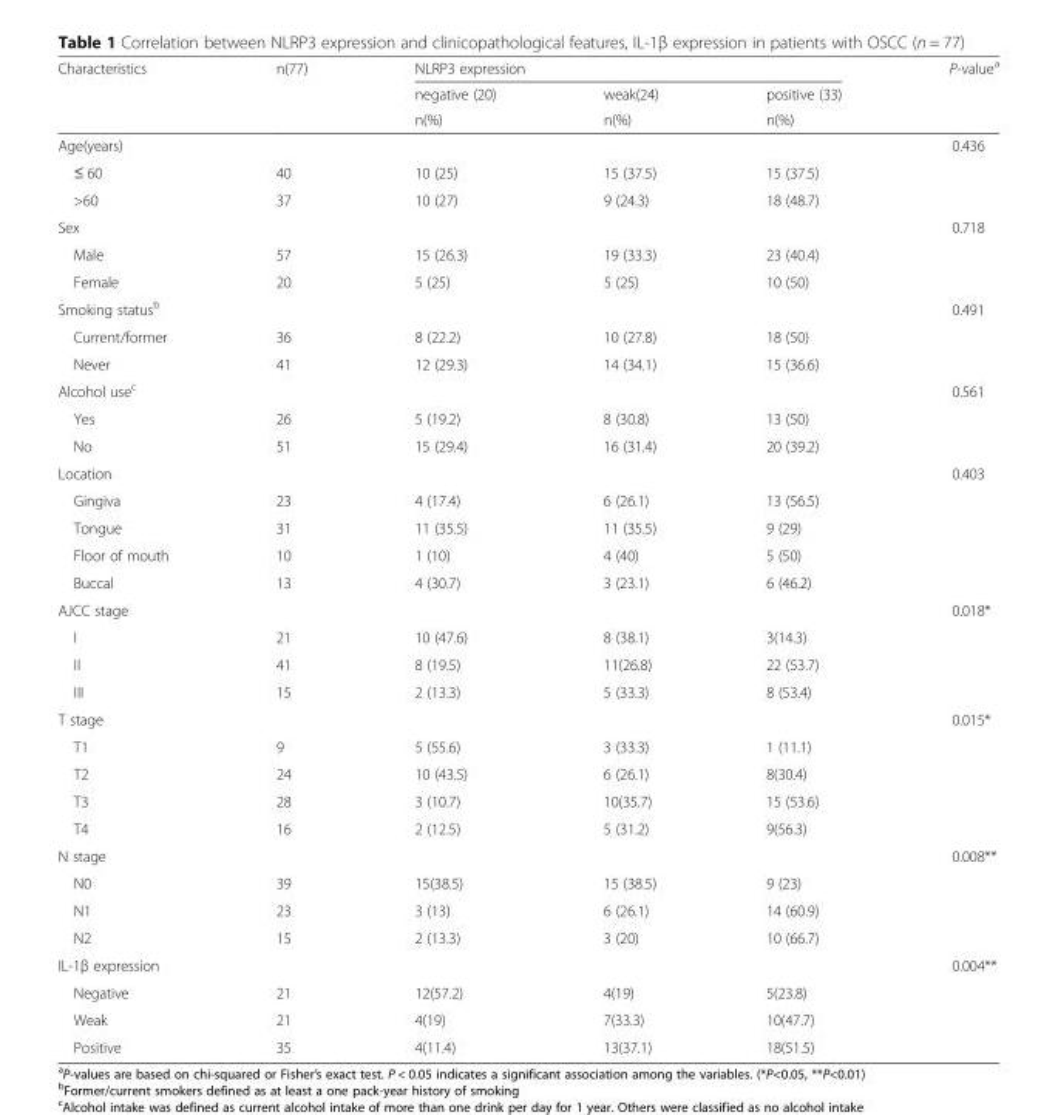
<table><thead><tr><td rowspan="3">Characteristics</td><td rowspan="3">n(77)</td><td colspan="3">NLRP3 expression</td><td rowspan="3">P-value<sup>a</sup></td></tr><tr><td rowspan="2">negative (20) n(%)</td><td rowspan="2">weak(24) n(%)</td><td rowspan="2">positive (33) n(%)</td></tr><tr></tr></thead><tbody><tr><td>Age(years)</td><td></td><td></td><td></td><td></td><td>0.436</td></tr><tr><td>≤ 60</td><td>40</td><td>10 (25)</td><td>15 (37.5)</td><td>15 (37.5)</td><td></td></tr><tr><td>&gt;60</td><td>37</td><td>10 (27)</td><td>9 (24.3)</td><td>18 (48.7)</td><td></td></tr><tr><td>Sex</td><td></td><td></td><td></td><td></td><td>0.718</td></tr><tr><td>Male</td><td>57</td><td>15 (26.3)</td><td>19 (33.3)</td><td>23 (40.4)</td><td></td></tr><tr><td>Female</td><td>20</td><td>5 (25)</td><td>5 (25)</td><td>10 (50)</td><td></td></tr><tr><td>Smoking status<sup>b</sup></td><td></td><td></td><td></td><td></td><td>0.491</td></tr><tr><td>Current/former</td><td>36</td><td>8 (22.2)</td><td>10 (27.8)</td><td>18 (50)</td><td></td></tr><tr><td>Never</td><td>41</td><td>12 (29.3)</td><td>14 (34.1)</td><td>15 (36.6)</td><td></td></tr><tr><td>Alcohol use<sup>c</sup></td><td></td><td></td><td></td><td></td><td>0.561</td></tr><tr><td>Yes</td><td>26</td><td>5 (19.2)</td><td>8 (30.8)</td><td>13 (50)</td><td></td></tr><tr><td>No</td><td>51</td><td>15 (29.4)</td><td>16 (31.4)</td><td>20 (39.2)</td><td></td></tr><tr><td>Location</td><td></td><td></td><td></td><td></td><td>0.403</td></tr><tr><td>Gingiva</td><td>23</td><td>4 (17.4)</td><td>6 (26.1)</td><td>13 (56.5)</td><td></td></tr><tr><td>Tongue</td><td>31</td><td>11 (35.5)</td><td>11 (35.5)</td><td>9 (29)</td><td></td></tr><tr><td>Floor of mouth</td><td>10</td><td>1 (10)</td><td>4 (40)</td><td>5 (50)</td><td></td></tr><tr><td>Buccal</td><td>13</td><td>4 (30.7)</td><td>3 (23.1)</td><td>6 (46.2)</td><td></td></tr><tr><td>AJCC stage</td><td></td><td></td><td></td><td></td><td>0.018*</td></tr><tr><td>I</td><td>21</td><td>10 (47.6)</td><td>8 (38.1)</td><td>3(14.3)</td><td></td></tr><tr><td>II</td><td>41</td><td>8 (19.5)</td><td>11(26.8)</td><td>22 (53.7)</td><td></td></tr><tr><td>III</td><td>15</td><td>2 (13.3)</td><td>5 (33.3)</td><td>8 (53.4)</td><td></td></tr><tr><td>T stage</td><td></td><td></td><td></td><td></td><td>0.015*</td></tr><tr><td>T1</td><td>9</td><td>5 (55.6)</td><td>3 (33.3)</td><td>1 (11.1)</td><td></td></tr><tr><td>T2</td><td>24</td><td>10 (43.5)</td><td>6 (26.1)</td><td>8(30.4)</td><td></td></tr><tr><td>T3</td><td>28</td><td>3 (10.7)</td><td>10(35.7)</td><td>15 (53.6)</td><td></td></tr><tr><td>T4</td><td>16</td><td>2 (12.5)</td><td>5 (31.2)</td><td>9(56.3)</td><td></td></tr><tr><td>N stage</td><td></td><td></td><td></td><td></td><td>0.008**</td></tr><tr><td>N0</td><td>39</td><td>15(38.5)</td><td>15 (38.5)</td><td>9 (23)</td><td></td></tr><tr><td>N1</td><td>23</td><td>3 (13)</td><td>6 (26.1)</td><td>14 (60.9)</td><td></td></tr><tr><td>N2</td><td>15</td><td>2 (13.3)</td><td>3 (20)</td><td>10 (66.7)</td><td></td></tr><tr><td>IL-1β expression</td><td></td><td></td><td></td><td></td><td>0.004**</td></tr><tr><td>Negative</td><td>21</td><td>12(57.2)</td><td>4(19)</td><td>5(23.8)</td><td></td></tr><tr><td>Weak</td><td>21</td><td>4(19)</td><td>7(33.3)</td><td>10(47.7)</td><td></td></tr><tr><td>Positive</td><td>35</td><td>4(11.4)</td><td>13(37.1)</td><td>18(51.5)</td><td></td></tr></tbody></table>